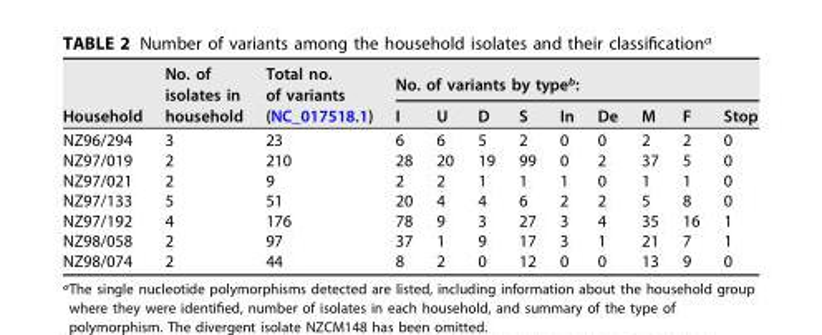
<table><thead><tr><td rowspan="2">Household</td><td rowspan="2">No. of isolates in household</td><td rowspan="2">Total no. of variants (NC_017518.1)</td><td colspan="9">No. of variants by type<sup>b</sup>:</td></tr><tr><td>I</td><td>U</td><td>D</td><td>S</td><td>In</td><td>De</td><td>M</td><td>F</td><td>Stop</td></tr></thead><tbody><tr><td>NZ96/294</td><td>3</td><td>23</td><td>6</td><td>6</td><td>5</td><td>2</td><td>0</td><td>0</td><td>2</td><td>2</td><td>0</td></tr><tr><td>NZ97/019</td><td>2</td><td>210</td><td>28</td><td>20</td><td>19</td><td>99</td><td>0</td><td>2</td><td>37</td><td>5</td><td>0</td></tr><tr><td>NZ97/021</td><td>2</td><td>9</td><td>2</td><td>2</td><td>1</td><td>1</td><td>1</td><td>0</td><td>1</td><td>1</td><td>0</td></tr><tr><td>NZ97/133</td><td>5</td><td>51</td><td>20</td><td>4</td><td>4</td><td>6</td><td>2</td><td>2</td><td>5</td><td>8</td><td>0</td></tr><tr><td>NZ97/192</td><td>4</td><td>176</td><td>78</td><td>9</td><td>3</td><td>27</td><td>3</td><td>4</td><td>35</td><td>16</td><td>1</td></tr><tr><td>NZ98/058</td><td>2</td><td>97</td><td>37</td><td>1</td><td>9</td><td>17</td><td>3</td><td>1</td><td>21</td><td>7</td><td>1</td></tr><tr><td>NZ98/074</td><td>2</td><td>44</td><td>8</td><td>2</td><td>0</td><td>12</td><td>0</td><td>0</td><td>13</td><td>9</td><td>0</td></tr></tbody></table>